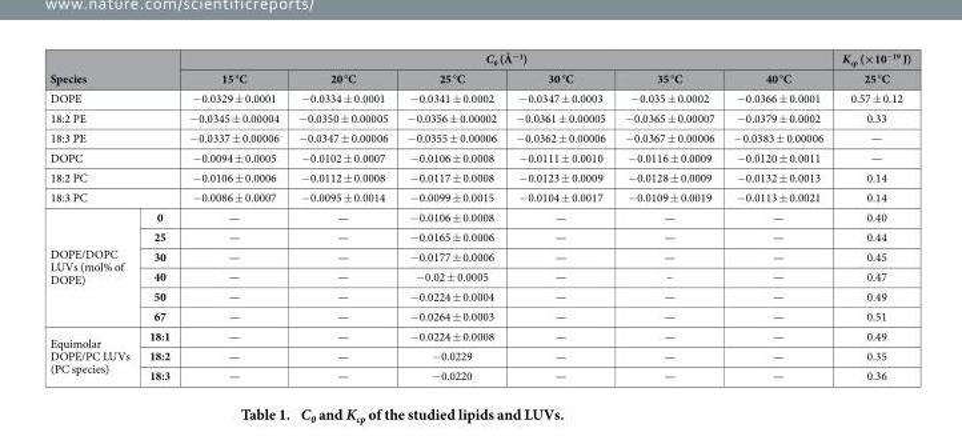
<table><thead><tr><td></td><td></td><td colspan="6">C<sub>0</sub> (Å<sup>−1</sup>)</td><td rowspan="2">K<sub>cp</sub> (×10<sup>−19</sup> J) 25 °C</td></tr><tr><td colspan="2">Species</td><td>15 °C</td><td>20 °C</td><td>25 °C</td><td>30 °C</td><td>35 °C</td><td>40 °C</td></tr></thead><tbody><tr><td colspan="2">DOPE</td><td>− 0.0329 ± 0.0001</td><td>− 0.0334 ± 0.0001</td><td>− 0.0341 ± 0.0002</td><td>− 0.0347 ± 0.0003</td><td>− 0.035 ± 0.0002</td><td>− 0.0366 ± 0.0001</td><td>0.57 ± 0.12</td></tr><tr><td colspan="2">18:2 PE</td><td>− 0.0345 ± 0.00004</td><td>− 0.0350 ± 0.00005</td><td>− 0.0356 ± 0.00002</td><td>− 0.0361 ± 0.00005</td><td>− 0.0365 ± 0.00007</td><td>− 0.0379 ± 0.0002</td><td>0.33</td></tr><tr><td colspan="2">18:3 PE</td><td>− 0.0337 ± 0.00006</td><td>− 0.0347 ± 0.00006</td><td>− 0.0355 ± 0.00006</td><td>− 0.0362 ± 0.00006</td><td>− 0.0367 ± 0.00006</td><td>− 0.0383 ± 0.00006</td><td>—</td></tr><tr><td colspan="2">DOPC</td><td>− 0.0094 ± 0.0005</td><td>− 0.0102 ± 0.0007</td><td>− 0.0106 ± 0.0008</td><td>− 0.0111 ± 0.0010</td><td>− 0.0116 ± 0.0009</td><td>− 0.0120 ± 0.0011</td><td>—</td></tr><tr><td colspan="2">18:2 PC</td><td>− 0.0106 ± 0.0006</td><td>− 0.0112 ± 0.0008</td><td>− 0.0117 ± 0.0008</td><td>− 0.0123 ± 0.0009</td><td>− 0.0128 ± 0.0009</td><td>− 0.0132 ± 0.0013</td><td>0.14</td></tr><tr><td colspan="2">18:3 PC</td><td>− 0.0086 ± 0.0007</td><td>− 0.0095 ± 0.0014</td><td>− 0.0099 ± 0.0015</td><td>− 0.0104 ± 0.0017</td><td>− 0.0109 ± 0.0019</td><td>− 0.0113 ± 0.0021</td><td>0.14</td></tr><tr><td rowspan="6">DOPE/DOPC LUVs (mol% of DOPE)</td><td>0</td><td>—</td><td>—</td><td>− 0.0106 ± 0.0008</td><td>—</td><td>—</td><td>—</td><td>0.40</td></tr><tr><td>25</td><td>—</td><td>—</td><td>− 0.0165 ± 0.0006</td><td>—</td><td>—</td><td>—</td><td>0.44</td></tr><tr><td>30</td><td>—</td><td>—</td><td>− 0.0177 ± 0.0006</td><td>—</td><td>—</td><td>—</td><td>0.45</td></tr><tr><td>40</td><td>—</td><td>—</td><td>− 0.02 ± 0.0005</td><td>—</td><td>–</td><td>—</td><td>0.47</td></tr><tr><td>50</td><td>—</td><td>—</td><td>− 0.0224 ± 0.0004</td><td>—</td><td>—</td><td>—</td><td>0.49</td></tr><tr><td>67</td><td>—</td><td>—</td><td>− 0.0264 ± 0.0003</td><td>—</td><td>—</td><td>—</td><td>0.51</td></tr><tr><td rowspan="3">Equimolar DOPE/PC LUVs (PC species)</td><td>18:1</td><td>—</td><td>—</td><td>− 0.0224 ± 0.0008</td><td>—</td><td>—</td><td>—</td><td>0.49</td></tr><tr><td>18:2</td><td>—</td><td>—</td><td>− 0.0229</td><td>—</td><td>—</td><td>—</td><td>0.35</td></tr><tr><td>18:3</td><td>—</td><td>—</td><td>− 0.0220</td><td>—</td><td>—</td><td>—</td><td>0.36</td></tr></tbody></table>